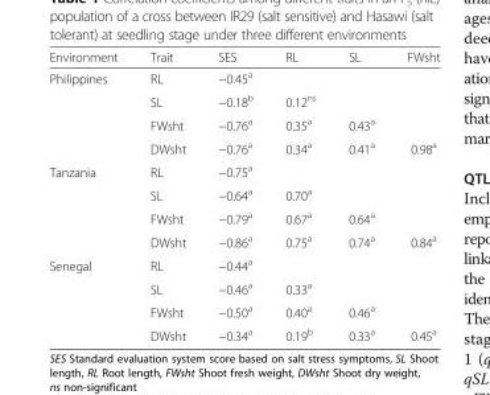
<table><thead><tr><td>Environment</td><td>Trait</td><td>SES</td><td>RL</td><td>SL</td><td>FWsht</td></tr></thead><tbody><tr><td rowspan="4">Philippines</td><td>RL</td><td>−0.45<sup>a</sup></td><td></td><td></td><td></td></tr><tr><td>SL</td><td>−0.18<sup>b</sup></td><td>0.12<sup>ns</sup></td><td></td><td></td></tr><tr><td>FWsht</td><td>−0.76<sup>a</sup></td><td>0.35<sup>a</sup></td><td>0.43<sup>a</sup></td><td></td></tr><tr><td>DWsht</td><td>−0.76<sup>a</sup></td><td>0.34<sup>a</sup></td><td>0.41<sup>a</sup></td><td>0.98<sup>a</sup></td></tr><tr><td rowspan="4">Tanzania</td><td>RL</td><td>−0.75<sup>a</sup></td><td></td><td></td><td></td></tr><tr><td>SL</td><td>−0.64<sup>a</sup></td><td>0.70<sup>a</sup></td><td></td><td></td></tr><tr><td>FWsht</td><td>−0.79<sup>a</sup></td><td>0.67<sup>a</sup></td><td>0.64<sup>a</sup></td><td></td></tr><tr><td>DWsht</td><td>−0.86<sup>a</sup></td><td>0.75<sup>a</sup></td><td>0.74<sup>a</sup></td><td>0.84<sup>a</sup></td></tr><tr><td rowspan="4">Senegal</td><td>RL</td><td>−0.44<sup>a</sup></td><td></td><td></td><td></td></tr><tr><td>SL</td><td>−0.46<sup>a</sup></td><td>0.33<sup>a</sup></td><td></td><td></td></tr><tr><td>FWsht</td><td>−0.50<sup>a</sup></td><td>0.40<sup>a</sup></td><td>0.46<sup>a</sup></td><td></td></tr><tr><td>DWsht</td><td>−0.34<sup>a</sup></td><td>0.19<sup>b</sup></td><td>0.33<sup>a</sup></td><td>0.45<sup>a</sup></td></tr></tbody></table>